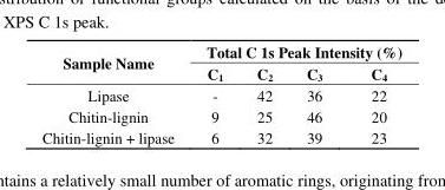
<table><thead><tr><td rowspan="2">Sample Name</td><td colspan="4">Total C 1s Peak Intensity (%)</td></tr><tr><td>C<sub>1</sub></td><td>C<sub>2</sub></td><td>C<sub>3</sub></td><td>C<sub>4</sub></td></tr></thead><tbody><tr><td>Lipase</td><td>-</td><td>42</td><td>36</td><td>22</td></tr><tr><td>Chitin-lignin</td><td>9</td><td>25</td><td>46</td><td>20</td></tr><tr><td>Chitin-lignin + lipase</td><td>6</td><td>32</td><td>39</td><td>23</td></tr></tbody></table>